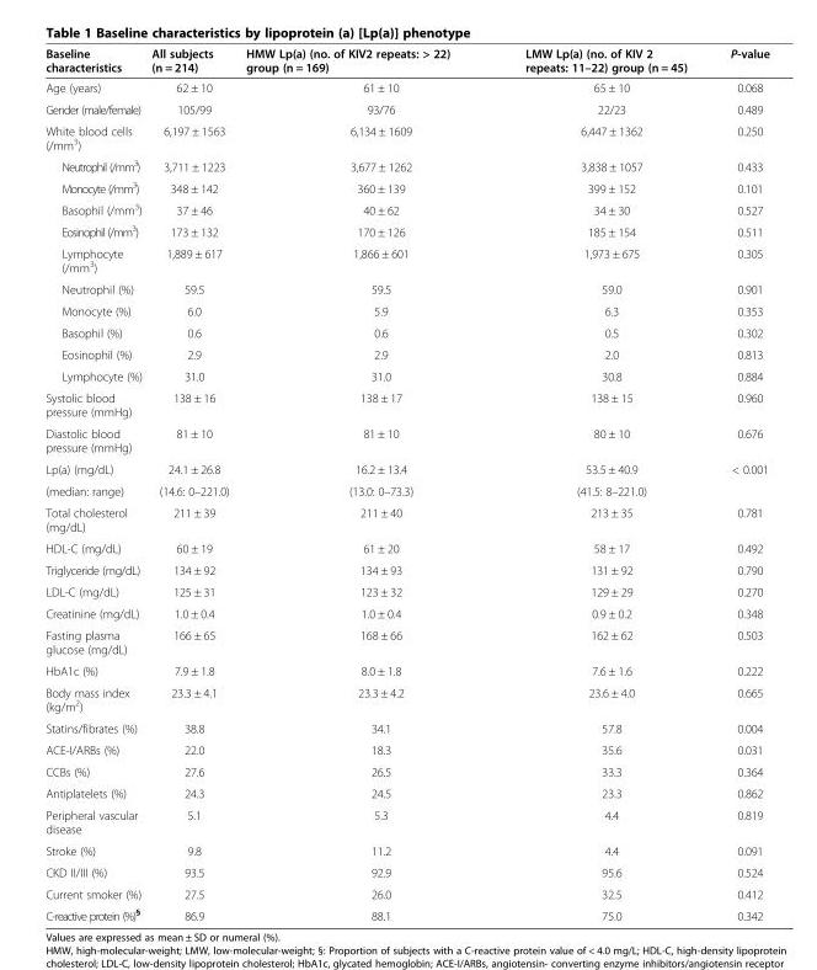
<table><thead><tr><td>Baseline characteristics</td><td>All subjects (n = 214)</td><td>HMW Lp(a) (no. of KIV2 repeats: &gt; 22) group (n = 169)</td><td>LMW Lp(a) (no. of KIV 2 repeats: 11–22) group (n = 45)</td><td>P-value</td></tr></thead><tbody><tr><td>Age (years)</td><td>62 ± 10</td><td>61 ± 10</td><td>65 ± 10</td><td>0.068</td></tr><tr><td>Gender (male/female)</td><td>105/99</td><td>93/76</td><td>22/23</td><td>0.489</td></tr><tr><td>White blood cells (/mm<sup>3</sup>)</td><td>6,197 ± 1563</td><td>6,134 ± 1609</td><td>6,447 ± 1362</td><td>0.250</td></tr><tr><td>Neutrophil (/mm<sup>3</sup>)</td><td>3,711 ± 1223</td><td>3,677 ± 1262</td><td>3,838 ± 1057</td><td>0.433</td></tr><tr><td>Monocyte (/mm<sup>3</sup>)</td><td>348 ± 142</td><td>360 ± 139</td><td>399 ± 152</td><td>0.101</td></tr><tr><td>Basophil (/mm<sup>3</sup>)</td><td>37 ± 46</td><td>40 ± 62</td><td>34 ± 30</td><td>0.527</td></tr><tr><td>Eosinophil (/mm<sup>3</sup>)</td><td>173 ± 132</td><td>170 ± 126</td><td>185 ± 154</td><td>0.511</td></tr><tr><td>Lymphocyte (/mm<sup>3</sup>)</td><td>1,889 ± 617</td><td>1,866 ± 601</td><td>1,973 ± 675</td><td>0.305</td></tr><tr><td>Neutrophil (%)</td><td>59.5</td><td>59.5</td><td>59.0</td><td>0.901</td></tr><tr><td>Monocyte (%)</td><td>6.0</td><td>5.9</td><td>6.3</td><td>0.353</td></tr><tr><td>Basophil (%)</td><td>0.6</td><td>0.6</td><td>0.5</td><td>0.302</td></tr><tr><td>Eosinophil (%)</td><td>2.9</td><td>2.9</td><td>2.0</td><td>0.813</td></tr><tr><td>Lymphocyte (%)</td><td>31.0</td><td>31.0</td><td>30.8</td><td>0.884</td></tr><tr><td>Systolic blood pressure (mmHg)</td><td>138 ± 16</td><td>138 ± 17</td><td>138 ± 15</td><td>0.960</td></tr><tr><td>Diastolic blood pressure (mmHg)</td><td>81 ± 10</td><td>81 ± 10</td><td>80 ± 10</td><td>0.676</td></tr><tr><td>Lp(a) (mg/dL)</td><td>24.1 ± 26.8</td><td>16.2 ± 13.4</td><td>53.5 ± 40.9</td><td>&lt; 0.001</td></tr><tr><td>(median: range)</td><td>(14.6: 0–221.0)</td><td>(13.0: 0–73.3)</td><td>(41.5: 8–221.0)</td><td></td></tr><tr><td>Total cholesterol (mg/dL)</td><td>211 ± 39</td><td>211 ± 40</td><td>213 ± 35</td><td>0.781</td></tr><tr><td>HDL-C (mg/dL)</td><td>60 ± 19</td><td>61 ± 20</td><td>58 ± 17</td><td>0.492</td></tr><tr><td>Triglyceride (mg/dL)</td><td>134 ± 92</td><td>134 ± 93</td><td>131 ± 92</td><td>0.790</td></tr><tr><td>LDL-C (mg/dL)</td><td>125 ± 31</td><td>123 ± 32</td><td>129 ± 29</td><td>0.270</td></tr><tr><td>Creatinine (mg/dL)</td><td>1.0 ± 0.4</td><td>1.0 ± 0.4</td><td>0.9 ± 0.2</td><td>0.348</td></tr><tr><td>Fasting plasma glucose (mg/dL)</td><td>166 ± 65</td><td>168 ± 66</td><td>162 ± 62</td><td>0.503</td></tr><tr><td>HbA1c (%)</td><td>7.9 ± 1.8</td><td>8.0 ± 1.8</td><td>7.6 ± 1.6</td><td>0.222</td></tr><tr><td>Body mass index (kg/m<sup>2</sup>)</td><td>23.3 ± 4.1</td><td>23.3 ± 4.2</td><td>23.6 ± 4.0</td><td>0.665</td></tr><tr><td>Statins/fibrates (%)</td><td>38.8</td><td>34.1</td><td>57.8</td><td>0.004</td></tr><tr><td>ACE-I/ARBs (%)</td><td>22.0</td><td>18.3</td><td>35.6</td><td>0.031</td></tr><tr><td>CCBs (%)</td><td>27.6</td><td>26.5</td><td>33.3</td><td>0.364</td></tr><tr><td>Antiplatelets (%)</td><td>24.3</td><td>24.5</td><td>23.3</td><td>0.862</td></tr><tr><td>Peripheral vascular disease</td><td>5.1</td><td>5.3</td><td>4.4</td><td>0.819</td></tr><tr><td>Stroke (%)</td><td>9.8</td><td>11.2</td><td>4.4</td><td>0.091</td></tr><tr><td>CKD II/III (%)</td><td>93.5</td><td>92.9</td><td>95.6</td><td>0.524</td></tr><tr><td>Current smoker (%)</td><td>27.5</td><td>26.0</td><td>32.5</td><td>0.412</td></tr><tr><td>C-reactive protein (%)<sup>§</sup></td><td>86.9</td><td>88.1</td><td>75.0</td><td>0.342</td></tr></tbody></table>